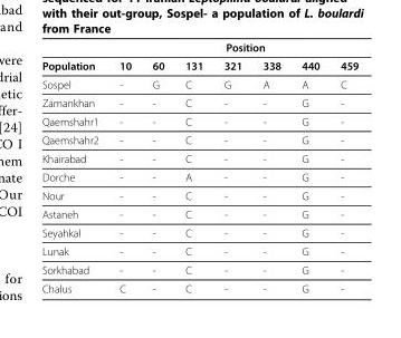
<table><thead><tr><td rowspan="2">Population</td><td colspan="7">Position</td></tr><tr><td>10</td><td>60</td><td>131</td><td>321</td><td>338</td><td>440</td><td>459</td></tr></thead><tbody><tr><td>Sospel</td><td>-</td><td>G</td><td>C</td><td>G</td><td>A</td><td>A</td><td>C</td></tr><tr><td>Zamankhan</td><td>-</td><td>-</td><td>C</td><td>-</td><td>-</td><td>G</td><td>-</td></tr><tr><td>Qaemshahr1</td><td>-</td><td>-</td><td>C</td><td>-</td><td>-</td><td>G</td><td>-</td></tr><tr><td>Qaemshahr2</td><td>-</td><td>-</td><td>C</td><td>-</td><td>-</td><td>G</td><td>-</td></tr><tr><td>Khairabad</td><td>-</td><td>-</td><td>C</td><td>-</td><td>-</td><td>G</td><td>-</td></tr><tr><td>Dorche</td><td>-</td><td>-</td><td>A</td><td>-</td><td>-</td><td>G</td><td>-</td></tr><tr><td>Nour</td><td>-</td><td>-</td><td>C</td><td>-</td><td>-</td><td>G</td><td>-</td></tr><tr><td>Astaneh</td><td>-</td><td>-</td><td>C</td><td>-</td><td>-</td><td>G</td><td>-</td></tr><tr><td>Seyahkal</td><td>-</td><td>-</td><td>C</td><td>-</td><td>-</td><td>G</td><td>-</td></tr><tr><td>Lunak</td><td>-</td><td>-</td><td>C</td><td>-</td><td>-</td><td>G</td><td>-</td></tr><tr><td>Sorkhabad</td><td>-</td><td>-</td><td>C</td><td>-</td><td>-</td><td>G</td><td>-</td></tr><tr><td>Chalus</td><td>C</td><td>-</td><td>C</td><td>-</td><td>-</td><td>G</td><td>-</td></tr></tbody></table>